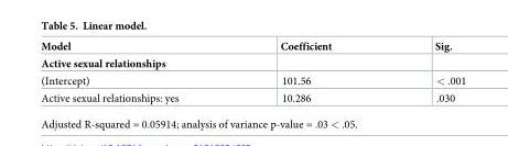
<table><thead><tr><td rowspan="2">Model Active sexual relationships</td><td rowspan="2">Coefficient</td><td rowspan="2">Sig.</td></tr><tr></tr></thead><tbody><tr><td>(Intercept)</td><td>101.56</td><td>&lt; .001</td></tr><tr><td>Active sexual relationships: yes</td><td>10.286</td><td>.030</td></tr></tbody></table>